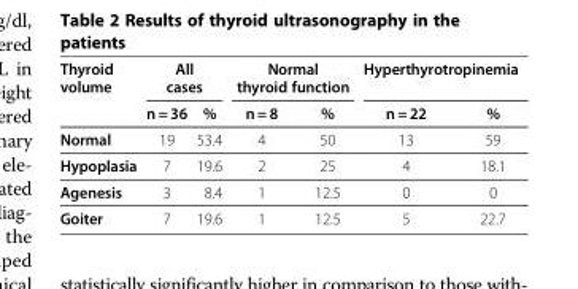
<table><thead><tr><td rowspan="2">Thyroid volume</td><td colspan="2">All cases</td><td colspan="2">Normal thyroid function</td><td colspan="2">Hyperthyrotropinemia</td></tr><tr><td>n = 36</td><td>%</td><td>n = 8</td><td>%</td><td>n = 22</td><td>%</td></tr></thead><tbody><tr><td>Normal</td><td>19</td><td>53.4</td><td>4</td><td>50</td><td>13</td><td>59</td></tr><tr><td>Hypoplasia</td><td>7</td><td>19.6</td><td>2</td><td>25</td><td>4</td><td>18.1</td></tr><tr><td>Agenesis</td><td>3</td><td>8.4</td><td>1</td><td>12.5</td><td>0</td><td>0</td></tr><tr><td>Goiter</td><td>7</td><td>19.6</td><td>1</td><td>12.5</td><td>5</td><td>22.7</td></tr></tbody></table>